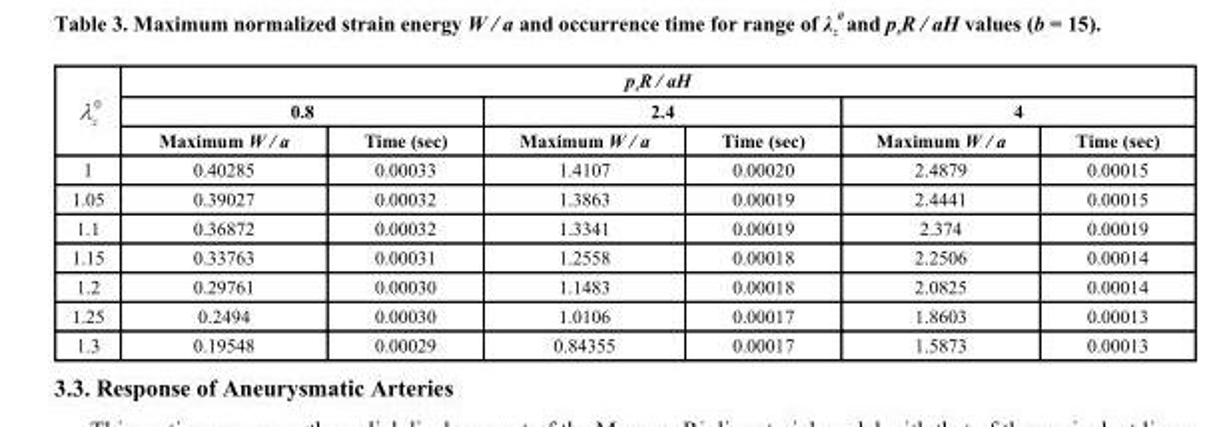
<table><thead><tr><td rowspan="3">λ <sub>z</sub><sup>0</sup></td><td colspan="6">p<sub>s</sub>R / aH</td></tr><tr><td colspan="2">0.8</td><td colspan="2">2.4</td><td colspan="2">4</td></tr><tr><td>Maximum W / a</td><td>Time (sec)</td><td>Maximum W / a</td><td>Time (sec)</td><td>Maximum W / a</td><td>Time (sec)</td></tr></thead><tbody><tr><td>1</td><td>0.40285</td><td>0.00033</td><td>1.4107</td><td>0.00020</td><td>2.4879</td><td>0.00015</td></tr><tr><td>1.05</td><td>0.39027</td><td>0.00032</td><td>1.3863</td><td>0.00019</td><td>2.4441</td><td>0.00015</td></tr><tr><td>1.1</td><td>0.36872</td><td>0.00032</td><td>1.3341</td><td>0.00019</td><td>2.374</td><td>0.00019</td></tr><tr><td>1.15</td><td>0.33763</td><td>0.00031</td><td>1.2558</td><td>0.00018</td><td>2.2506</td><td>0.00014</td></tr><tr><td>1.2</td><td>0.29761</td><td>0.00030</td><td>1.1483</td><td>0.00018</td><td>2.0825</td><td>0.00014</td></tr><tr><td>1.25</td><td>0.2494</td><td>0.00030</td><td>1.0106</td><td>0.00017</td><td>1.8603</td><td>0.00013</td></tr><tr><td>1.3</td><td>0.19548</td><td>0.00029</td><td>0.84355</td><td>0.00017</td><td>1.5873</td><td>0.00013</td></tr></tbody></table>